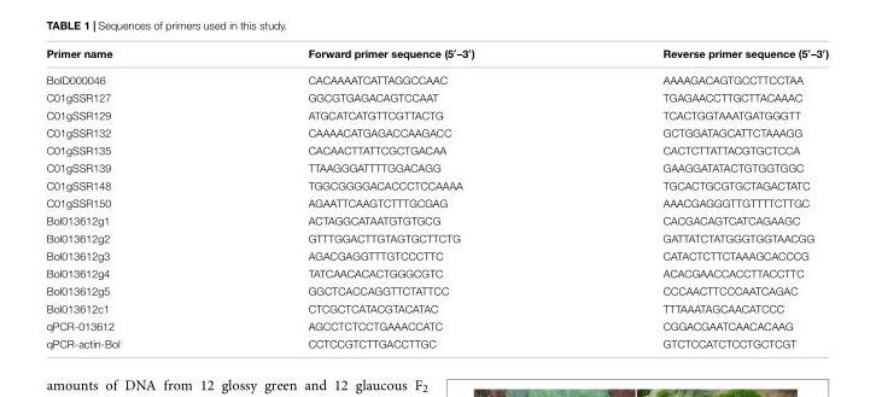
<table><thead><tr><td>Primer name</td><td>Forward primer sequence (5′–3′)</td><td>Reverse primer sequence (5′–3′)</td></tr></thead><tbody><tr><td>BoID000046</td><td>CACAAAATCATTAGGCCAAC</td><td>AAAAGACAGTGCCTTCCTAA</td></tr><tr><td>C01gSSR127</td><td>GGCGTGAGACAGTCCAAT</td><td>TGAGAACCTTGCTTACAAAC</td></tr><tr><td>C01gSSR129</td><td>ATGCATCATGTTCGTTACTG</td><td>TCACTGGTAAATGATGGGTT</td></tr><tr><td>C01gSSR132</td><td>CAAAACATGAGACCAAGACC</td><td>GCTGGATAGCATTCTAAAGG</td></tr><tr><td>C01gSSR135</td><td>CACAACTTATTCGCTGACAA</td><td>CACTCTTATTACGTGCTCCA</td></tr><tr><td>C01gSSR139</td><td>TTAAGGGATTTTGGACAGG</td><td>GAAGGATATACTGTGGTGGC</td></tr><tr><td>C01gSSR148</td><td>TGGCGGGGACACCCTCCAAAA</td><td>TGCACTGCGTGCTAGACTATC</td></tr><tr><td>C01gSSR150</td><td>AGAATTCAAGTCTTTGCGAG</td><td>AAACGAGGGTTGTTTTCTTGC</td></tr><tr><td>Bol013612g1</td><td>ACTAGGCATAATGTGTGCG</td><td>CACGACAGTCATCAGAAGC</td></tr><tr><td>Bol013612g2</td><td>GTTTGGACTTGTAGTGCTTCTG</td><td>GATTATCTATGGGTGGTAACGG</td></tr><tr><td>Bol013612g3</td><td>AGACGAGGTTTGTCCCTTC</td><td>CATACTCTTCTAAAGCACCCG</td></tr><tr><td>Bol013612g4</td><td>TATCAACACACTGGGCGTC</td><td>ACACGAACCACCTTACCTTC</td></tr><tr><td>Bol013612g5</td><td>GGCTCACCAGGTTCTATTCC</td><td>CCCAACTTCCCAATCAGAC</td></tr><tr><td>Bol013612c1</td><td>CTCGCTCATACGTACATAC</td><td>TTTAAATAGCAACATCCC</td></tr><tr><td>qPCR-013612</td><td>AGCCTCTCCTGAAACCATC</td><td>CGGACGAATCAACACAAG</td></tr><tr><td>qPCR-actin-Bol</td><td>CCTCCGTCTTGACCTTGC</td><td>GTCTCCATCTCCTGCTCGT</td></tr></tbody></table>